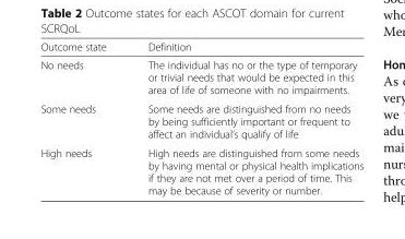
<table><thead><tr><td>Outcome state</td><td>Definition</td></tr></thead><tbody><tr><td>No needs</td><td>The individual has no or the type of temporary or trivial needs that would be expected in this area of life of someone with no impairments.</td></tr><tr><td>Some needs</td><td>Some needs are distinguished from no needs by being sufficiently important or frequent to affect an individual’s qualify of life</td></tr><tr><td>High needs</td><td>High needs are distinguished from some needs by having mental or physical health implications if they are not met over a period of time. This may be because of severity or number.</td></tr></tbody></table>